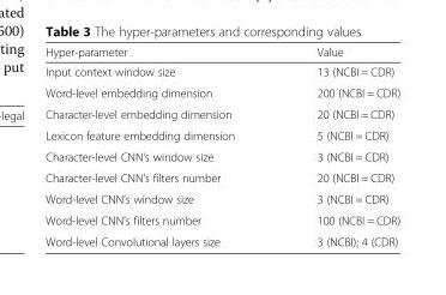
<table><thead><tr><td>Hyper-parameter</td><td>Value</td></tr></thead><tbody><tr><td>Input context window size</td><td>13 (NCBI = CDR)</td></tr><tr><td>Word-level embedding dimension</td><td>200 (NCBI = CDR)</td></tr><tr><td>Character-level embedding dimension</td><td>20 (NCBI = CDR)</td></tr><tr><td>Lexicon feature embedding dimension</td><td>5 (NCBI = CDR)</td></tr><tr><td>Character-level CNN’s window size</td><td>3 (NCBI = CDR)</td></tr><tr><td>Character-level CNN’s filters number</td><td>20 (NCBI = CDR)</td></tr><tr><td>Word-level CNN’s window size</td><td>3 (NCBI = CDR)</td></tr><tr><td>Word-level CNN’s filters number</td><td>100 (NCBI = CDR)</td></tr><tr><td>Word-level Convolutional layers size</td><td>3 (NCBI); 4 (CDR)</td></tr></tbody></table>